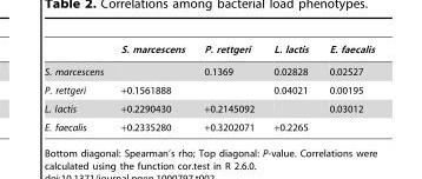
<table><thead><tr><td></td><td>S. marcescens</td><td>P. rettgeri</td><td>L. lactis</td><td>E. faecalis</td></tr></thead><tbody><tr><td>S. marcescens</td><td></td><td>0.1369</td><td>0.02828</td><td>0.02527</td></tr><tr><td>P. rettgeri</td><td>+0.1561888</td><td></td><td>0.04021</td><td>0.00195</td></tr><tr><td>L. lactis</td><td>+0.2290430</td><td>+0.2145092</td><td></td><td>0.03012</td></tr><tr><td>E. faecalis</td><td>+0.2335280</td><td>+0.3202071</td><td>+0.2265</td><td></td></tr></tbody></table>